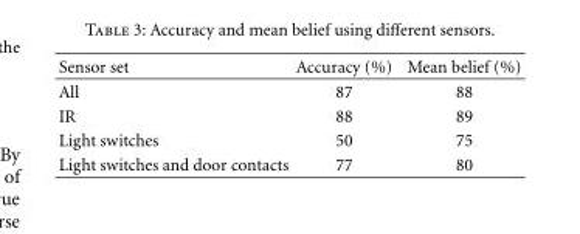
<table><thead><tr><td>Sensor set</td><td>Accuracy (%)</td><td>Mean belief (%)</td></tr></thead><tbody><tr><td>All</td><td>87</td><td>88</td></tr><tr><td>IR</td><td>88</td><td>89</td></tr><tr><td>Light switches</td><td>50</td><td>75</td></tr><tr><td>Light switches and door contacts</td><td>77</td><td>80</td></tr></tbody></table>